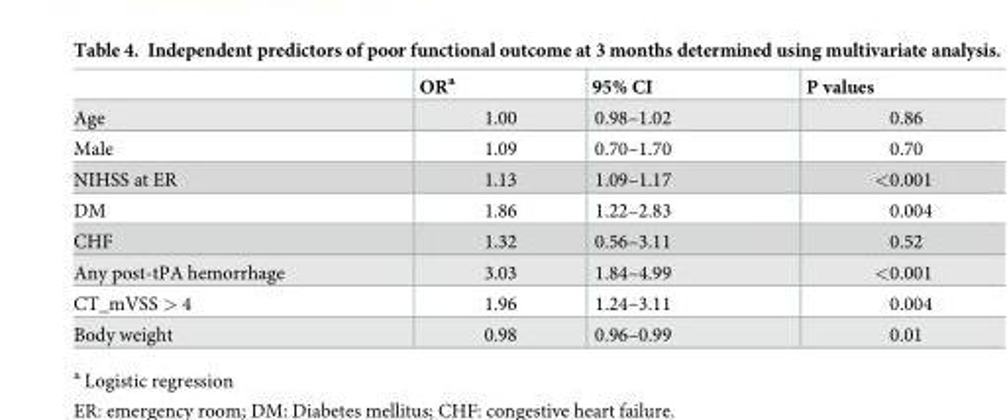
<table><thead><tr><td></td><td>OR<sup>a</sup></td><td>95% CI</td><td>P values</td></tr></thead><tbody><tr><td>Age</td><td>1.00</td><td>0.98–1.02</td><td>0.86</td></tr><tr><td>Male</td><td>1.09</td><td>0.70–1.70</td><td>0.70</td></tr><tr><td>NIHSS at ER</td><td>1.13</td><td>1.09–1.17</td><td>&lt;0.001</td></tr><tr><td>DM</td><td>1.86</td><td>1.22–2.83</td><td>0.004</td></tr><tr><td>CHF</td><td>1.32</td><td>0.56–3.11</td><td>0.52</td></tr><tr><td>Any post-tPA hemorrhage</td><td>3.03</td><td>1.84–4.99</td><td>&lt;0.001</td></tr><tr><td>CT_mVSS &gt; 4</td><td>1.96</td><td>1.24–3.11</td><td>0.004</td></tr><tr><td>Body weight</td><td>0.98</td><td>0.96–0.99</td><td>0.01</td></tr></tbody></table>